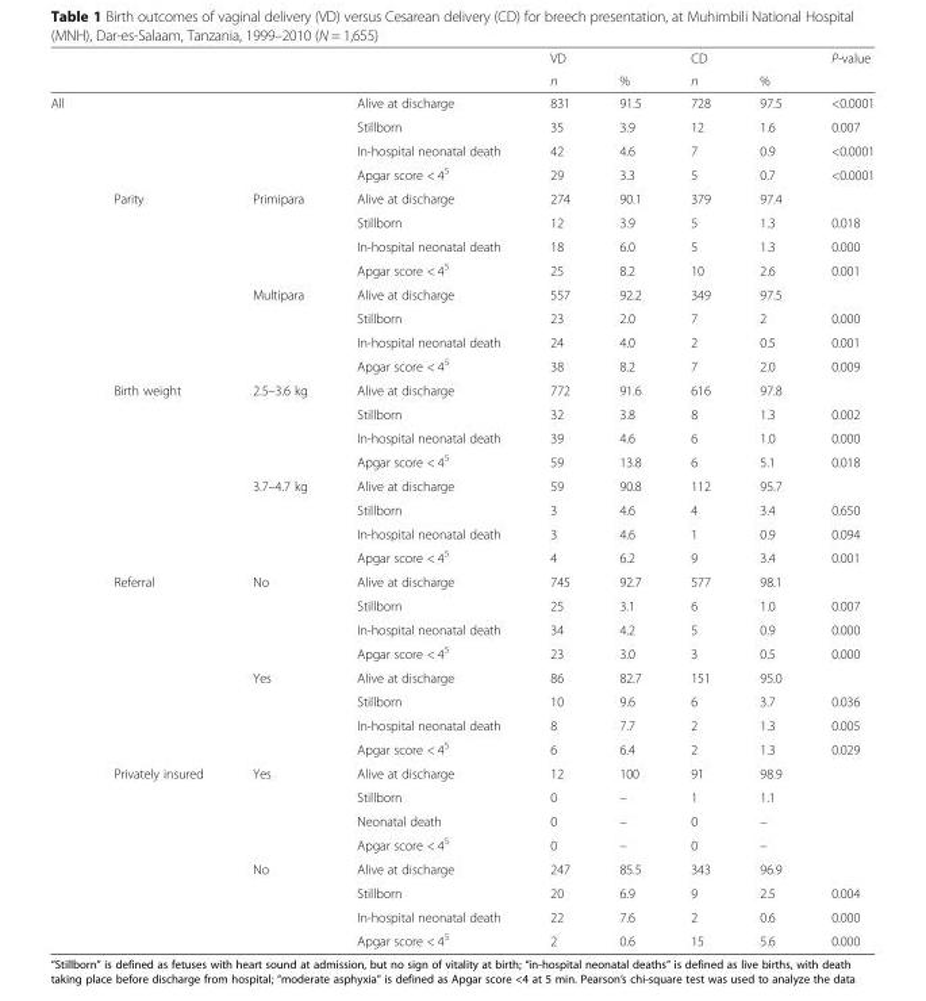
<table><thead><tr><td rowspan="2"></td><td rowspan="2"></td><td rowspan="2"></td><td rowspan="2"></td><td rowspan="2">VD n</td><td rowspan="2">%</td><td rowspan="2">CD n</td><td rowspan="2">%</td><td rowspan="2">P-value</td></tr><tr></tr></thead><tbody><tr><td rowspan="36">All</td><td></td><td></td><td>Alive at discharge</td><td>831</td><td>91.5</td><td>728</td><td>97.5</td><td>&lt;0.0001</td></tr><tr><td></td><td></td><td>Stillborn</td><td>35</td><td>3.9</td><td>12</td><td>1.6</td><td>0.007</td></tr><tr><td></td><td></td><td>In-hospital neonatal death</td><td>42</td><td>4.6</td><td>7</td><td>0.9</td><td>&lt;0.0001</td></tr><tr><td></td><td></td><td>Apgar score &lt; 4<sup>5</sup></td><td>29</td><td>3.3</td><td>5</td><td>0.7</td><td>&lt;0.0001</td></tr><tr><td>Parity</td><td>Primipara</td><td>Alive at discharge</td><td>274</td><td>90.1</td><td>379</td><td>97.4</td><td></td></tr><tr><td></td><td></td><td>Stillborn</td><td>12</td><td>3.9</td><td>5</td><td>1.3</td><td>0.018</td></tr><tr><td></td><td></td><td>In-hospital neonatal death</td><td>18</td><td>6.0</td><td>5</td><td>1.3</td><td>0.000</td></tr><tr><td></td><td></td><td>Apgar score &lt; 4<sup>5</sup></td><td>25</td><td>8.2</td><td>10</td><td>2.6</td><td>0.001</td></tr><tr><td></td><td>Multipara</td><td>Alive at discharge</td><td>557</td><td>92.2</td><td>349</td><td>97.5</td><td></td></tr><tr><td></td><td></td><td>Stillborn</td><td>23</td><td>2.0</td><td>7</td><td>2</td><td>0.000</td></tr><tr><td></td><td></td><td>In-hospital neonatal death</td><td>24</td><td>4.0</td><td>2</td><td>0.5</td><td>0.001</td></tr><tr><td></td><td></td><td>Apgar score &lt; 4<sup>5</sup></td><td>38</td><td>8.2</td><td>7</td><td>2.0</td><td>0.009</td></tr><tr><td>Birth weight</td><td>2.5–3.6 kg</td><td>Alive at discharge</td><td>772</td><td>91.6</td><td>616</td><td>97.8</td><td></td></tr><tr><td></td><td></td><td>Stillborn</td><td>32</td><td>3.8</td><td>8</td><td>1.3</td><td>0.002</td></tr><tr><td></td><td></td><td>In-hospital neonatal death</td><td>39</td><td>4.6</td><td>6</td><td>1.0</td><td>0.000</td></tr><tr><td></td><td></td><td>Apgar score &lt; 4<sup>5</sup></td><td>59</td><td>13.8</td><td>6</td><td>5.1</td><td>0.018</td></tr><tr><td></td><td>3.7–4.7 kg</td><td>Alive at discharge</td><td>59</td><td>90.8</td><td>112</td><td>95.7</td><td></td></tr><tr><td></td><td></td><td>Stillborn</td><td>3</td><td>4.6</td><td>4</td><td>3.4</td><td>0.650</td></tr><tr><td></td><td></td><td>In-hospital neonatal death</td><td>3</td><td>4.6</td><td>1</td><td>0.9</td><td>0.094</td></tr><tr><td></td><td></td><td>Apgar score &lt; 4<sup>5</sup></td><td>4</td><td>6.2</td><td>9</td><td>3.4</td><td>0.001</td></tr><tr><td>Referral</td><td>No</td><td>Alive at discharge</td><td>745</td><td>92.7</td><td>577</td><td>98.1</td><td></td></tr><tr><td></td><td></td><td>Stillborn</td><td>25</td><td>3.1</td><td>6</td><td>1.0</td><td>0.007</td></tr><tr><td></td><td></td><td>In-hospital neonatal death</td><td>34</td><td>4.2</td><td>5</td><td>0.9</td><td>0.000</td></tr><tr><td></td><td></td><td>Apgar score &lt; 4<sup>5</sup></td><td>23</td><td>3.0</td><td>3</td><td>0.5</td><td>0.000</td></tr><tr><td></td><td>Yes</td><td>Alive at discharge</td><td>86</td><td>82.7</td><td>151</td><td>95.0</td><td></td></tr><tr><td></td><td></td><td>Stillborn</td><td>10</td><td>9.6</td><td>6</td><td>3.7</td><td>0.036</td></tr><tr><td></td><td></td><td>In-hospital neonatal death</td><td>8</td><td>7.7</td><td>2</td><td>1.3</td><td>0.005</td></tr><tr><td></td><td></td><td>Apgar score &lt; 4<sup>5</sup></td><td>6</td><td>6.4</td><td>2</td><td>1.3</td><td>0.029</td></tr><tr><td>Privately insured</td><td>Yes</td><td>Alive at discharge</td><td>12</td><td>100</td><td>91</td><td>98.9</td><td></td></tr><tr><td></td><td></td><td>Stillborn</td><td>0</td><td>–</td><td>1</td><td>1.1</td><td></td></tr><tr><td></td><td></td><td>Neonatal death</td><td>0</td><td>–</td><td>0</td><td>–</td><td></td></tr><tr><td></td><td></td><td>Apgar score &lt; 4<sup>5</sup></td><td>0</td><td>–</td><td>0</td><td>–</td><td></td></tr><tr><td></td><td>No</td><td>Alive at discharge</td><td>247</td><td>85.5</td><td>343</td><td>96.9</td><td></td></tr><tr><td></td><td></td><td>Stillborn</td><td>20</td><td>6.9</td><td>9</td><td>2.5</td><td>0.004</td></tr><tr><td></td><td></td><td>In-hospital neonatal death</td><td>22</td><td>7.6</td><td>2</td><td>0.6</td><td>0.000</td></tr><tr><td></td><td></td><td>Apgar score &lt; 4<sup>5</sup></td><td>2</td><td>0.6</td><td>15</td><td>5.6</td><td>0.000</td></tr></tbody></table>